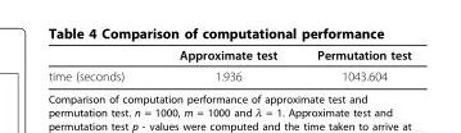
<table><thead><tr><td></td><td>Approximate test</td><td>Permutation test</td></tr></thead><tbody><tr><td>time (seconds)</td><td>1.936</td><td>1043.604</td></tr></tbody></table>